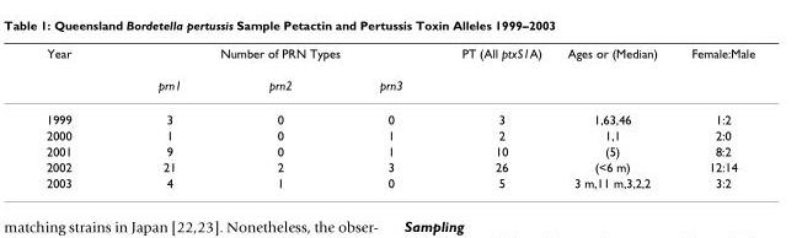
<table><thead><tr><td rowspan="2">Year</td><td colspan="3">Number of PRN Types</td><td rowspan="2">PT (All ptxS1A)</td><td rowspan="2">Ages or (Median)</td><td rowspan="2">Female:Male</td></tr><tr><td>prn1</td><td>prn2</td><td>prn3</td></tr></thead><tbody><tr><td>1999</td><td>3</td><td>0</td><td>0</td><td>3</td><td>1,63,46</td><td>1:2</td></tr><tr><td>2000</td><td>1</td><td>0</td><td>1</td><td>2</td><td>1,1</td><td>2:0</td></tr><tr><td>2001</td><td>9</td><td>0</td><td>1</td><td>10</td><td>(5)</td><td>8:2</td></tr><tr><td>2002</td><td>21</td><td>2</td><td>3</td><td>26</td><td>(&lt;6 m)</td><td>12:14</td></tr><tr><td>2003</td><td>4</td><td>1</td><td>0</td><td>5</td><td>3 m,11 m,3,2,2</td><td>3:2</td></tr></tbody></table>